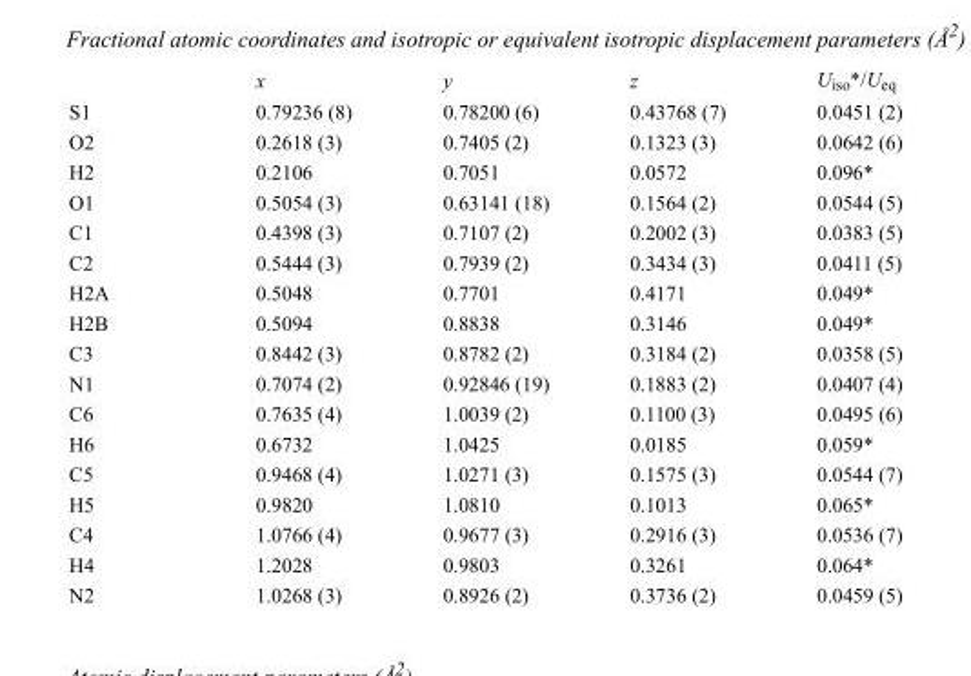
<table><thead><tr><td></td><td>x</td><td>y</td><td>z</td><td>U<sub>iso</sub>*/U<sub>eq</sub></td></tr></thead><tbody><tr><td>S1</td><td>0.79236 (8)</td><td>0.78200 (6)</td><td>0.43768 (7)</td><td>0.0451 (2)</td></tr><tr><td>O2</td><td>0.2618 (3)</td><td>0.7405 (2)</td><td>0.1323 (3)</td><td>0.0642 (6)</td></tr><tr><td>H2</td><td>0.2106</td><td>0.7051</td><td>0.0572</td><td>0.096*</td></tr><tr><td>O1</td><td>0.5054 (3)</td><td>0.63141 (18)</td><td>0.1564 (2)</td><td>0.0544 (5)</td></tr><tr><td>C1</td><td>0.4398 (3)</td><td>0.7107 (2)</td><td>0.2002 (3)</td><td>0.0383 (5)</td></tr><tr><td>C2</td><td>0.5444 (3)</td><td>0.7939 (2)</td><td>0.3434 (3)</td><td>0.0411 (5)</td></tr><tr><td>H2A</td><td>0.5048</td><td>0.7701</td><td>0.4171</td><td>0.049*</td></tr><tr><td>H2B</td><td>0.5094</td><td>0.8838</td><td>0.3146</td><td>0.049*</td></tr><tr><td>C3</td><td>0.8442 (3)</td><td>0.8782 (2)</td><td>0.3184 (2)</td><td>0.0358 (5)</td></tr><tr><td>N1</td><td>0.7074 (2)</td><td>0.92846 (19)</td><td>0.1883 (2)</td><td>0.0407 (4)</td></tr><tr><td>C6</td><td>0.7635 (4)</td><td>1.0039 (2)</td><td>0.1100 (3)</td><td>0.0495 (6)</td></tr><tr><td>H6</td><td>0.6732</td><td>1.0425</td><td>0.0185</td><td>0.059*</td></tr><tr><td>C5</td><td>0.9468 (4)</td><td>1.0271 (3)</td><td>0.1575 (3)</td><td>0.0544 (7)</td></tr><tr><td>H5</td><td>0.9820</td><td>1.0810</td><td>0.1013</td><td>0.065*</td></tr><tr><td>C4</td><td>1.0766 (4)</td><td>0.9677 (3)</td><td>0.2916 (3)</td><td>0.0536 (7)</td></tr><tr><td>H4</td><td>1.2028</td><td>0.9803</td><td>0.3261</td><td>0.064*</td></tr><tr><td>N2</td><td>1.0268 (3)</td><td>0.8926 (2)</td><td>0.3736 (2)</td><td>0.0459 (5)</td></tr></tbody></table>